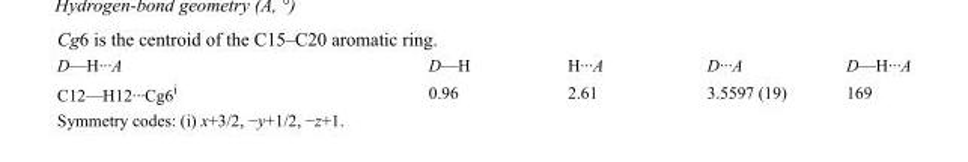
<table><tbody><tr><td>D—H···A</td><td>D—H</td><td>H···A</td><td>D···A</td><td>D—H···A</td></tr><tr><td>C12—H12···Cg6<sup>i</sup></td><td>0.96</td><td>2.61</td><td>3.5597 (19)</td><td>169</td></tr></tbody></table>